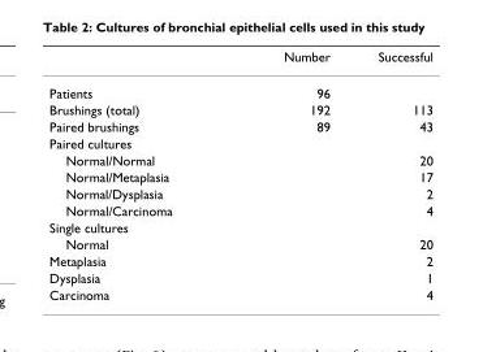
<table><thead><tr><td></td><td>Number</td><td>Successful</td></tr></thead><tbody><tr><td>Patients</td><td>96</td><td></td></tr><tr><td>Brushings (total)</td><td>192</td><td>113</td></tr><tr><td>Paired brushings</td><td>89</td><td>43</td></tr><tr><td colspan="3">Paired cultures</td></tr><tr><td>Normal/Normal</td><td></td><td>20</td></tr><tr><td>Normal/Metaplasia</td><td></td><td>17</td></tr><tr><td>Normal/Dysplasia</td><td></td><td>2</td></tr><tr><td>Normal/Carcinoma</td><td></td><td>4</td></tr><tr><td colspan="3">Single cultures</td></tr><tr><td>Normal</td><td></td><td>20</td></tr><tr><td>Metaplasia</td><td></td><td>2</td></tr><tr><td>Dysplasia</td><td></td><td>1</td></tr><tr><td>Carcinoma</td><td></td><td>4</td></tr></tbody></table>